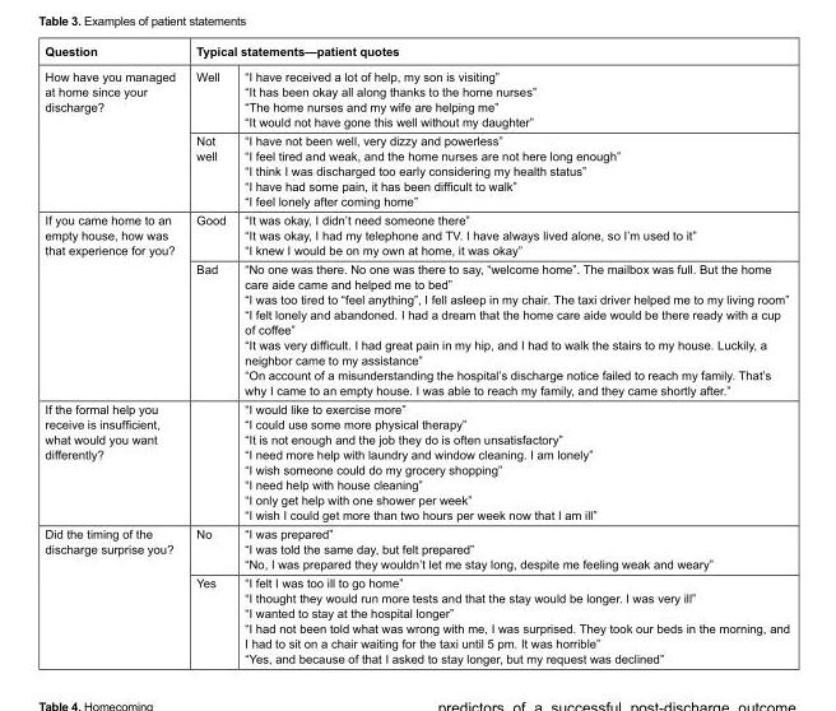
<table><thead><tr><td rowspan="2">Question How have you managed at home since your discharge?</td><td colspan="2">Typical statements—patient quotes</td></tr><tr><td>Well</td><td>“I have received a lot of help, my son is visiting” “It has been okay all along thanks to the home nurses” “The home nurses and my wife are helping me” “It would not have gone this well without my daughter”</td></tr></thead><tbody><tr><td></td><td>Not well</td><td>“I have not been well, very dizzy and powerless” “I feel tired and weak, and the home nurses are not here long enough” “I think I was discharged too early considering my health status” “I have had some pain, it has been difficult to walk” “I feel lonely after coming home”</td></tr><tr><td rowspan="2">If you came home to an empty house, how was that experience for you?</td><td>Good</td><td>“It was okay, I didn’t need someone there” “It was okay, I had my telephone and TV. I have always lived alone, so I’m used to it” “I knew I would be on my own at home, it was okay”</td></tr><tr><td>Bad</td><td>“No one was there. No one was there to say, “welcome home”. The mailbox was full. But the home care aide came and helped me to bed” “I was too tired to “feel anything”, I fell asleep in my chair. The taxi driver helped me to my living room” “I felt lonely and abandoned. I had a dream that the home care aide would be there ready with a cup of coffee” “It was very difficult. I had great pain in my hip, and I had to walk the stairs to my house. Luckily, a neighbor came to my assistance” “On account of a misunderstanding the hospital’s discharge notice failed to reach my family. That’s why I came to an empty house. I was able to reach my family, and they came shortly after.”</td></tr><tr><td>If the formal help you receive is insufficient, what would you want differently?</td><td></td><td>“I would like to exercise more” “I could use some more physical therapy” “It is not enough and the job they do is often unsatisfactory” “I need more help with laundry and window cleaning. I am lonely” “I wish someone could do my grocery shopping” “I need help with house cleaning” “I only get help with one shower per week” “I wish I could get more than two hours per week now that I am ill”</td></tr><tr><td rowspan="2">Did the timing of the discharge surprise you?</td><td>No</td><td>“I was prepared” “I was told the same day, but felt prepared” “No, I was prepared they wouldn’t let me stay long, despite me feeling weak and weary”</td></tr><tr><td>Yes</td><td>“I felt I was too ill to go home” “I thought they would run more tests and that the stay would be longer. I was very ill” “I wanted to stay at the hospital longer” “I had not been told what was wrong with me, I was surprised. They took our beds in the morning, and I had to sit on a chair waiting for the taxi until 5 pm. It was horrible” “Yes, and because of that I asked to stay longer, but my request was declined”</td></tr></tbody></table>